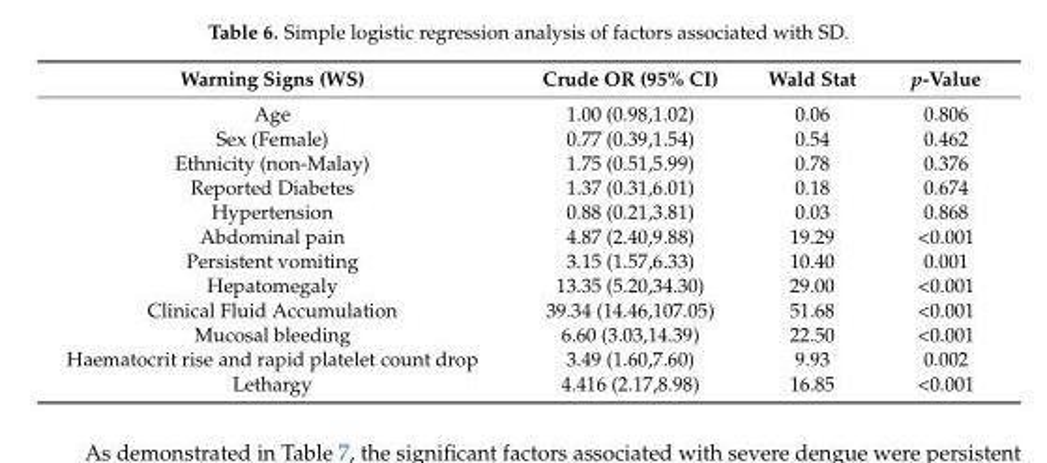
<table><thead><tr><td>Warning Signs (WS)</td><td>Crude OR (95% CI)</td><td>Wald Stat</td><td>p-Value</td></tr></thead><tbody><tr><td>Age</td><td>1.00 (0.98,1.02)</td><td>0.06</td><td>0.806</td></tr><tr><td>Sex (Female)</td><td>0.77 (0.39,1.54)</td><td>0.54</td><td>0.462</td></tr><tr><td>Ethnicity (non-Malay)</td><td>1.75 (0.51,5.99)</td><td>0.78</td><td>0.376</td></tr><tr><td>Reported Diabetes</td><td>1.37 (0.31,6.01)</td><td>0.18</td><td>0.674</td></tr><tr><td>Hypertension</td><td>0.88 (0.21,3.81)</td><td>0.03</td><td>0.868</td></tr><tr><td>Abdominal pain</td><td>4.87 (2.40,9.88)</td><td>19.29</td><td>&lt;0.001</td></tr><tr><td>Persistent vomiting</td><td>3.15 (1.57,6.33)</td><td>10.40</td><td>0.001</td></tr><tr><td>Hepatomegaly</td><td>13.35 (5.20,34.30)</td><td>29.00</td><td>&lt;0.001</td></tr><tr><td>Clinical Fluid Accumulation</td><td>39.34 (14.46,107.05)</td><td>51.68</td><td>&lt;0.001</td></tr><tr><td>Mucosal bleeding</td><td>6.60 (3.03,14.39)</td><td>22.50</td><td>&lt;0.001</td></tr><tr><td>Haematocrit rise and rapid platelet count drop</td><td>3.49 (1.60,7.60)</td><td>9.93</td><td>0.002</td></tr><tr><td>Lethargy</td><td>4.416 (2.17,8.98)</td><td>16.85</td><td>&lt;0.001</td></tr></tbody></table>